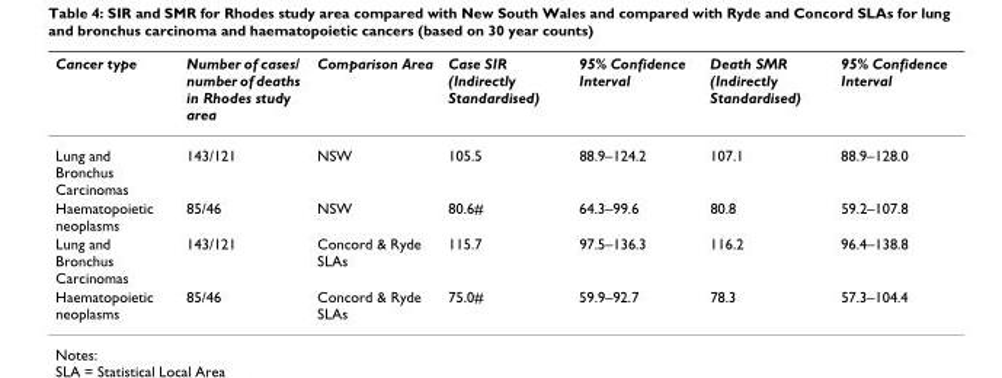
<table><thead><tr><td>Cancer type</td><td>Number of cases/ number of deaths in Rhodes study area</td><td>Comparison Area</td><td>Case SIR (Indirectly Standardised)</td><td>95% Confidence Interval</td><td>Death SMR (Indirectly Standardised)</td><td>95% Confidence Interval</td></tr></thead><tbody><tr><td>Lung and Bronchus Carcinomas</td><td>143/121</td><td>NSW</td><td>105.5</td><td>88.9–124.2</td><td>107.1</td><td>88.9–128.0</td></tr><tr><td>Haematopoietic neoplasms</td><td>85/46</td><td>NSW</td><td>80.6#</td><td>64.3–99.6</td><td>80.8</td><td>59.2–107.8</td></tr><tr><td>Lung and Bronchus Carcinomas</td><td>143/121</td><td>Concord &amp; Ryde SLAs</td><td>115.7</td><td>97.5–136.3</td><td>116.2</td><td>96.4–138.8</td></tr><tr><td>Haematopoietic neoplasms</td><td>85/46</td><td>Concord &amp; Ryde SLAs</td><td>75.0#</td><td>59.9–92.7</td><td>78.3</td><td>57.3–104.4</td></tr></tbody></table>